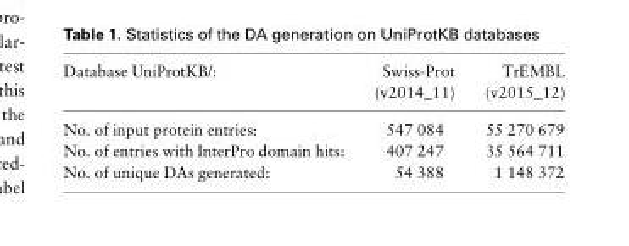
<table><thead><tr><td>Database UniProtKB/:</td><td>Swiss-Prot (v2014_11)</td><td>TrEMBL (v2015_12)</td></tr></thead><tbody><tr><td>No. of input protein entries:</td><td>547 084</td><td>55 270 679</td></tr><tr><td>No. of entries with InterPro domain hits:</td><td>407 247</td><td>35 564 711</td></tr><tr><td>No. of unique DAs generated:</td><td>54 388</td><td>1 148 372</td></tr></tbody></table>